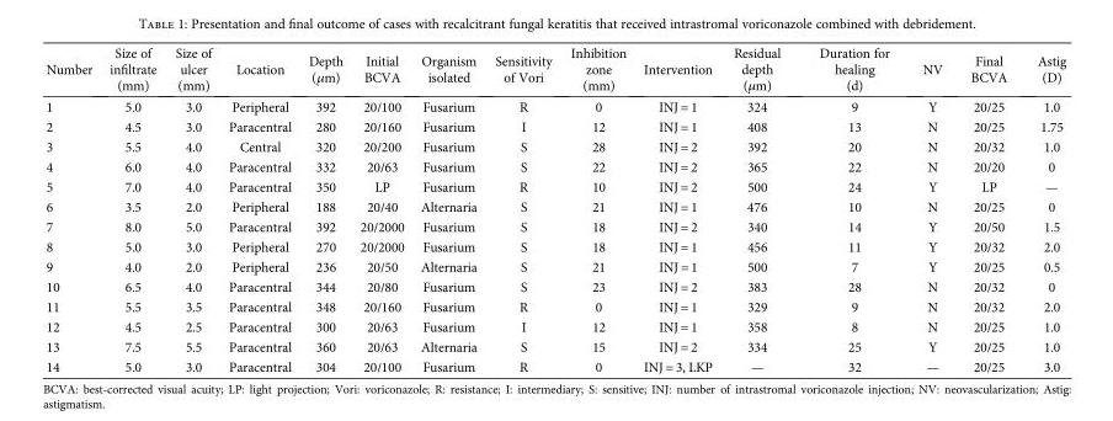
<table><thead><tr><td>Number</td><td>Size of infiltrate (mm)</td><td>Size of ulcer (mm)</td><td>Location</td><td>Depth (μm)</td><td>Initial BCVA</td><td>Organism isolated</td><td>Sensitivity of Vori</td><td>Inhibition zone (mm)</td><td>Intervention</td><td>Residual depth (μm)</td><td>Duration for healing (d)</td><td>NV</td><td>Final BCVA</td><td>Astig (D)</td></tr></thead><tbody><tr><td>1</td><td>5.0</td><td>3.0</td><td>Peripheral</td><td>392</td><td>20/100</td><td>Fusarium</td><td>R</td><td>0</td><td>INJ = 1</td><td>324</td><td>9</td><td>Y</td><td>20/25</td><td>1.0</td></tr><tr><td>2</td><td>4.5</td><td>3.0</td><td>Paracentral</td><td>280</td><td>20/160</td><td>Fusarium</td><td>I</td><td>12</td><td>INJ = 1</td><td>408</td><td>13</td><td>N</td><td>20/25</td><td>1.75</td></tr><tr><td>3</td><td>5.5</td><td>4.0</td><td>Central</td><td>320</td><td>20/200</td><td>Fusarium</td><td>S</td><td>28</td><td>INJ = 2</td><td>392</td><td>20</td><td>N</td><td>20/32</td><td>1.0</td></tr><tr><td>4</td><td>6.0</td><td>4.0</td><td>Paracentral</td><td>332</td><td>20/63</td><td>Fusarium</td><td>S</td><td>22</td><td>INJ = 2</td><td>365</td><td>22</td><td>N</td><td>20/20</td><td>0</td></tr><tr><td>5</td><td>7.0</td><td>4.0</td><td>Paracentral</td><td>350</td><td>LP</td><td>Fusarium</td><td>R</td><td>10</td><td>INJ = 2</td><td>500</td><td>24</td><td>Y</td><td>LP</td><td>—</td></tr><tr><td>6</td><td>3.5</td><td>2.0</td><td>Peripheral</td><td>188</td><td>20/40</td><td>Alternaria</td><td>S</td><td>21</td><td>INJ = 1</td><td>476</td><td>10</td><td>N</td><td>20/25</td><td>0</td></tr><tr><td>7</td><td>8.0</td><td>5.0</td><td>Paracentral</td><td>392</td><td>20/2000</td><td>Fusarium</td><td>S</td><td>18</td><td>INJ = 2</td><td>340</td><td>14</td><td>Y</td><td>20/50</td><td>1.5</td></tr><tr><td>8</td><td>5.0</td><td>3.0</td><td>Peripheral</td><td>270</td><td>20/2000</td><td>Fusarium</td><td>S</td><td>18</td><td>INJ = 1</td><td>456</td><td>11</td><td>Y</td><td>20/32</td><td>2.0</td></tr><tr><td>9</td><td>4.0</td><td>2.0</td><td>Peripheral</td><td>236</td><td>20/50</td><td>Alternaria</td><td>S</td><td>21</td><td>INJ = 1</td><td>500</td><td>7</td><td>Y</td><td>20/25</td><td>0.5</td></tr><tr><td>10</td><td>6.5</td><td>4.0</td><td>Paracentral</td><td>344</td><td>20/80</td><td>Fusarium</td><td>S</td><td>23</td><td>INJ = 2</td><td>383</td><td>28</td><td>N</td><td>20/32</td><td>0</td></tr><tr><td>11</td><td>5.5</td><td>3.5</td><td>Paracentral</td><td>348</td><td>20/160</td><td>Fusarium</td><td>R</td><td>0</td><td>INJ = 1</td><td>329</td><td>9</td><td>N</td><td>20/32</td><td>2.0</td></tr><tr><td>12</td><td>4.5</td><td>2.5</td><td>Paracentral</td><td>300</td><td>20/63</td><td>Fusarium</td><td>I</td><td>12</td><td>INJ = 1</td><td>358</td><td>8</td><td>N</td><td>20/25</td><td>1.0</td></tr><tr><td>13</td><td>7.5</td><td>5.5</td><td>Paracentral</td><td>360</td><td>20/63</td><td>Alternaria</td><td>S</td><td>15</td><td>INJ = 2</td><td>334</td><td>25</td><td>Y</td><td>20/25</td><td>1.0</td></tr><tr><td>14</td><td>5.0</td><td>3.0</td><td>Paracentral</td><td>304</td><td>20/100</td><td>Fusarium</td><td>R</td><td>0</td><td>INJ = 3, LKP</td><td>—</td><td>32</td><td>—</td><td>20/25</td><td>3.0</td></tr></tbody></table>